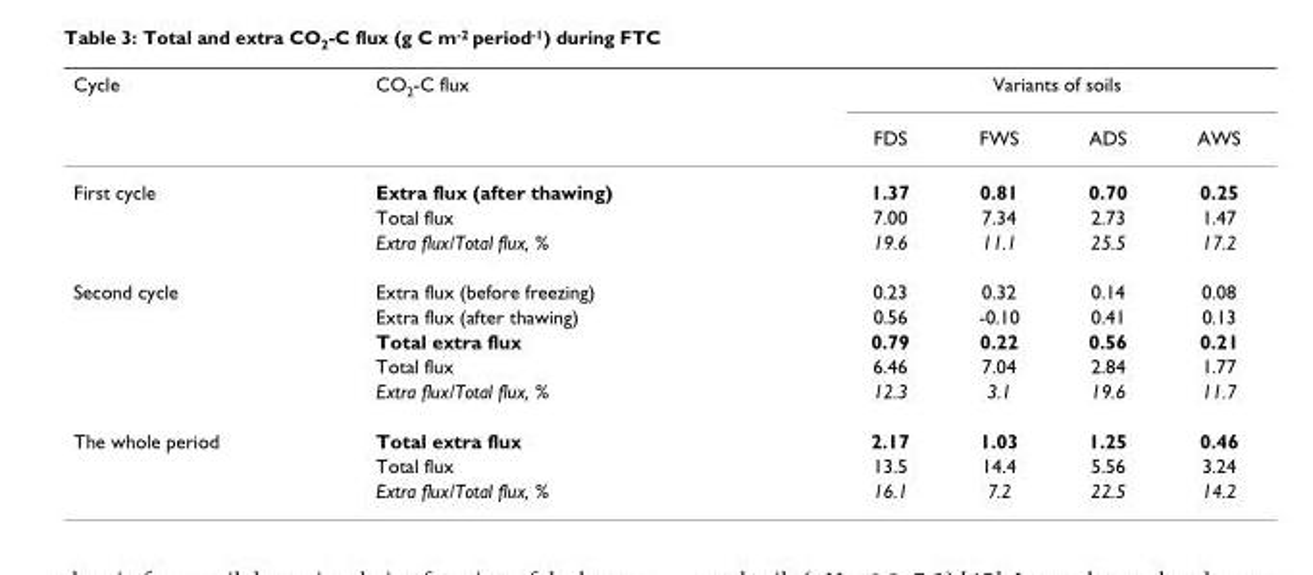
<table><thead><tr><td rowspan="2">Cycle</td><td rowspan="2">CO<sub>2</sub>-C flux</td><td colspan="4">Variants of soils</td></tr><tr><td>FDS</td><td>FWS</td><td>ADS</td><td>AWS</td></tr></thead><tbody><tr><td rowspan="3">First cycle</td><td>Extra flux (after thawing)</td><td>1.37</td><td>0.81</td><td>0.70</td><td>0.25</td></tr><tr><td>Total flux</td><td>7.00</td><td>7.34</td><td>2.73</td><td>1.47</td></tr><tr><td>Extra flux/Total flux, %</td><td>19.6</td><td>11.1</td><td>25.5</td><td>17.2</td></tr><tr><td rowspan="5">Second cycle</td><td>Extra flux (before freezing)</td><td>0.23</td><td>0.32</td><td>0.14</td><td>0.08</td></tr><tr><td>Extra flux (after thawing)</td><td>0.56</td><td>-0.10</td><td>0.41</td><td>0.13</td></tr><tr><td>Total extra flux</td><td>0.79</td><td>0.22</td><td>0.56</td><td>0.21</td></tr><tr><td>Total flux</td><td>6.46</td><td>7.04</td><td>2.84</td><td>1.77</td></tr><tr><td>Extra flux/Total flux, %</td><td>12.3</td><td>3.1</td><td>19.6</td><td>11.7</td></tr><tr><td rowspan="3">The whole period</td><td>Total extra flux</td><td>2.17</td><td>1.03</td><td>1.25</td><td>0.46</td></tr><tr><td>Total flux</td><td>13.5</td><td>14.4</td><td>5.56</td><td>3.24</td></tr><tr><td>Extra flux/Total flux, %</td><td>16.1</td><td>7.2</td><td>22.5</td><td>14.2</td></tr></tbody></table>